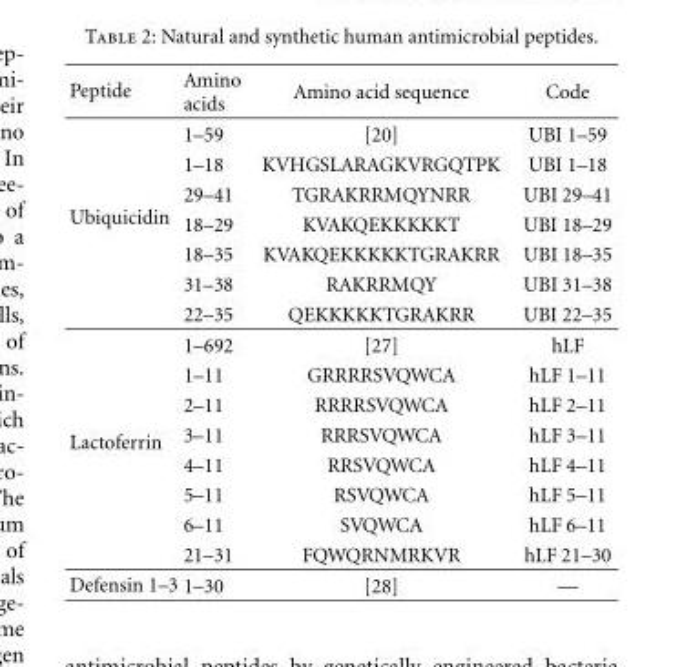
<table><thead><tr><td>Peptide</td><td>Amino acids</td><td>Amino acid sequence</td><td>Code</td></tr></thead><tbody><tr><td rowspan="7">Ubiquicidin</td><td>1–59</td><td>[20]</td><td>UBI 1–59</td></tr><tr><td>1–18</td><td>KVHGSLARAGKVRGQTPK</td><td>UBI 1–18</td></tr><tr><td>29–41</td><td>TGRAKRRMQYNRR</td><td>UBI 29–41</td></tr><tr><td>18–29</td><td>KVAKQEKKKKKT</td><td>UBI 18–29</td></tr><tr><td>18–35</td><td>KVAKQEKKKKKTGRAKRR</td><td>UBI 18–35</td></tr><tr><td>31–38</td><td>RAKRRMQY</td><td>UBI 31–38</td></tr><tr><td>22–35</td><td>QEKKKKKTGRAKRR</td><td>UBI 22–35</td></tr><tr><td rowspan="8">Lactoferrin</td><td>1–692</td><td>[27]</td><td>hLF</td></tr><tr><td>1–11</td><td>GRRRRSVQWCA</td><td>hLF 1–11</td></tr><tr><td>2–11</td><td>RRRRSVQWCA</td><td>hLF 2–11</td></tr><tr><td>3–11</td><td>RRRSVQWCA</td><td>hLF 3–11</td></tr><tr><td>4–11</td><td>RRSVQWCA</td><td>hLF 4–11</td></tr><tr><td>5–11</td><td>RSVQWCA</td><td>hLF 5–11</td></tr><tr><td>6–11</td><td>SVQWCA</td><td>hLF 6–11</td></tr><tr><td>21–31</td><td>FQWQRNMRKVR</td><td>hLF 21–30</td></tr><tr><td>Defensin 1–3</td><td>1–30</td><td>[28]</td><td>—</td></tr></tbody></table>